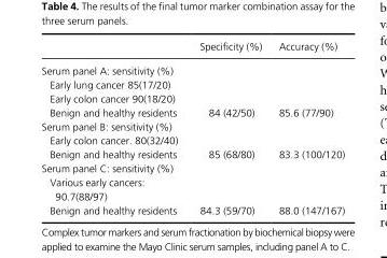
<table><thead><tr><td></td><td>Specificity (%)</td><td>Accuracy (%)</td></tr></thead><tbody><tr><td colspan="3">Serum panel A: sensitivity (%)</td></tr><tr><td colspan="3">Early lung cancer 85(17/20)</td></tr><tr><td colspan="3">Early colon cancer 90(18/20)</td></tr><tr><td>Benign and healthy residents</td><td>84 (42/50)</td><td>85.6 (77/90)</td></tr><tr><td colspan="3">Serum panel B: sensitivity (%)</td></tr><tr><td colspan="3">Early colon cancer. 80(32/40)</td></tr><tr><td>Benign and healthy residents</td><td>85 (68/80)</td><td>83.3 (100/120)</td></tr><tr><td colspan="3">Serum panel C: sensitivity (%)</td></tr><tr><td colspan="3">Various early cancers: 90.7(88/97)</td></tr><tr><td>Benign and healthy residents</td><td>84.3 (59/70)</td><td>88.0 (147/167)</td></tr></tbody></table>